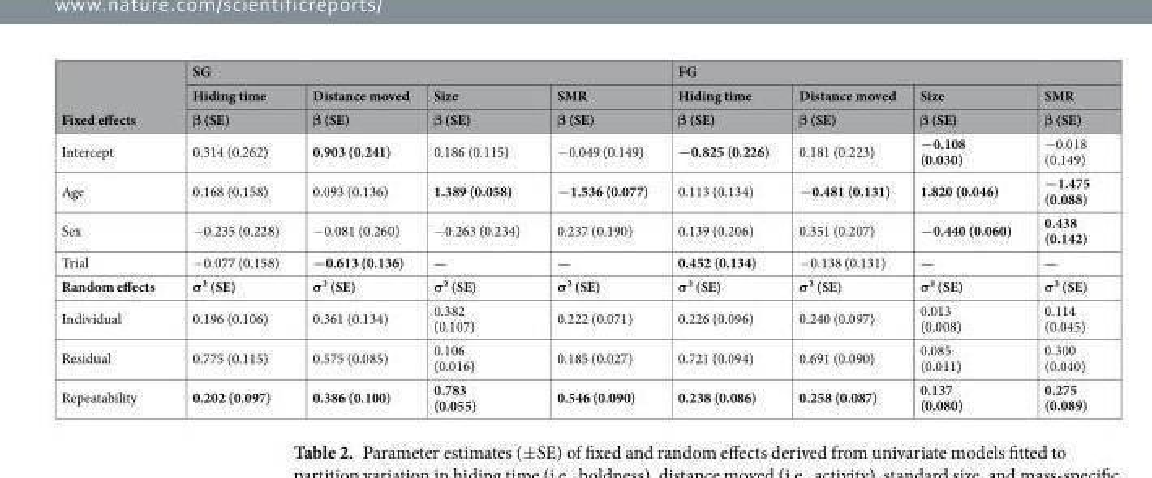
<table><thead><tr><td rowspan="3">Fixed effects</td><td colspan="4">SG</td><td colspan="4">FG</td></tr><tr><td rowspan="2">Hiding time β (SE)</td><td rowspan="2">Distance moved β (SE)</td><td rowspan="2">Size β (SE)</td><td rowspan="2">SMR β (SE)</td><td rowspan="2">Hiding time β (SE)</td><td rowspan="2">Distance moved β (SE)</td><td rowspan="2">Size β (SE)</td><td rowspan="2">SMR β (SE)</td></tr><tr></tr></thead><tbody><tr><td>Intercept</td><td>0.314 (0.262)</td><td>0.903 (0.241)</td><td>0.186 (0.115)</td><td>−0.049 (0.149)</td><td>−0.825 (0.226)</td><td>0.181 (0.223)</td><td>−0.108 (0.030)</td><td>−0.018 (0.149)</td></tr><tr><td>Age</td><td>0.168 (0.158)</td><td>0.093 (0.136)</td><td>1.389 (0.058)</td><td>−1.536 (0.077)</td><td>0.113 (0.134)</td><td>−0.481 (0.131)</td><td>1.820 (0.046)</td><td>−1.475 (0.088)</td></tr><tr><td>Sex</td><td>−0.235 (0.228)</td><td>−0.081 (0.260)</td><td>−0.263 (0.234)</td><td>0.237 (0.190)</td><td>0.139 (0.206)</td><td>0.351 (0.207)</td><td>−0.440 (0.060)</td><td>0.438 (0.142)</td></tr><tr><td>Trial</td><td>−0.077 (0.158)</td><td>−0.613 (0.136)</td><td>—</td><td>—</td><td>0.452 (0.134)</td><td>−0.138 (0.131)</td><td>—</td><td>—</td></tr><tr><td>Random effects</td><td>σ² (SE)</td><td>σ² (SE)</td><td>σ² (SE)</td><td>σ² (SE)</td><td>σ² (SE)</td><td>σ² (SE)</td><td>σ² (SE)</td><td>σ² (SE)</td></tr><tr><td>Individual</td><td>0.196 (0.106)</td><td>0.361 (0.134)</td><td>0.382 (0.107)</td><td>0.222 (0.071)</td><td>0.226 (0.096)</td><td>0.240 (0.097)</td><td>0.013 (0.008)</td><td>0.114 (0.045)</td></tr><tr><td>Residual</td><td>0.775 (0.115)</td><td>0.575 (0.085)</td><td>0.106 (0.016)</td><td>0.185 (0.027)</td><td>0.721 (0.094)</td><td>0.691 (0.090)</td><td>0.085 (0.011)</td><td>0.300 (0.040)</td></tr><tr><td>Repeatability</td><td>0.202 (0.097)</td><td>0.386 (0.100)</td><td>0.783 (0.055)</td><td>0.546 (0.090)</td><td>0.238 (0.086)</td><td>0.258 (0.087)</td><td>0.137 (0.080)</td><td>0.275 (0.089)</td></tr></tbody></table>